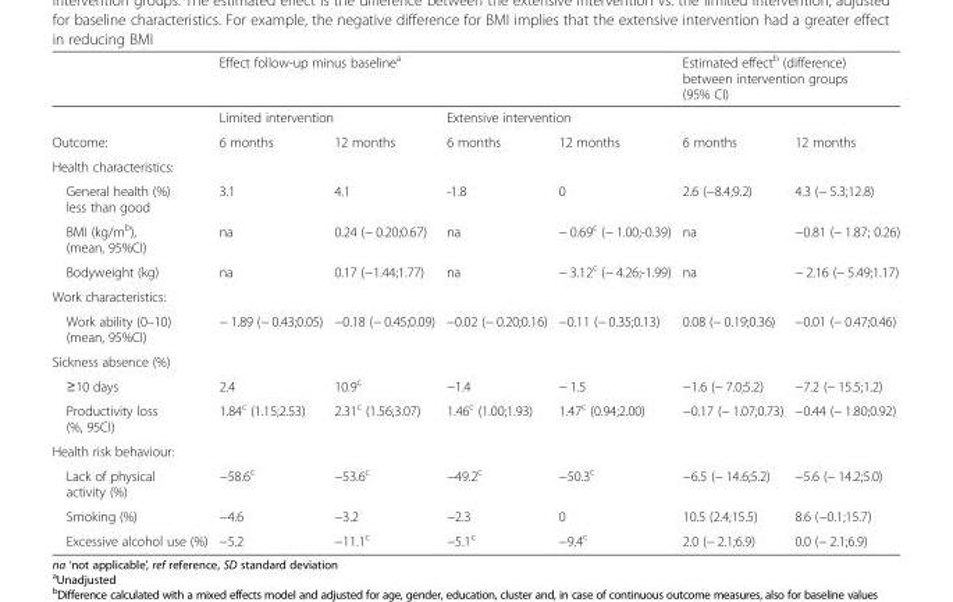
<table><thead><tr><td rowspan="3">Outcome:</td><td colspan="4">Effect follow-up minus baseline<sup>a</sup></td><td rowspan="2" colspan="2">Estimated effect<sup>b</sup> (difference) between intervention groups (95% CI)</td></tr><tr><td colspan="2">Limited intervention</td><td colspan="2">Extensive intervention</td></tr><tr><td>6 months</td><td>12 months</td><td>6 months</td><td>12 months</td><td>6 months</td><td>12 months</td></tr></thead><tbody><tr><td colspan="7">Health characteristics:</td></tr><tr><td>General health (%) less than good</td><td>3.1</td><td>4.1</td><td>-1.8</td><td>0</td><td>2.6 (−8.4;9.2)</td><td>4.3 (− 5.3;12.8)</td></tr><tr><td>BMI (kg/m<sup>b</sup>), (mean, 95%CI)</td><td>na</td><td>0.24 (− 0.20;0.67)</td><td>na</td><td>− 0.69<sup>c</sup> (− 1.00;-0.39)</td><td>na</td><td>−0.81 (− 1.87; 0.26)</td></tr><tr><td>Bodyweight (kg)</td><td>na</td><td>0.17 (−1.44;1.77)</td><td>na</td><td>− 3.12<sup>c</sup> (− 4.26;-1.99)</td><td>na</td><td>− 2.16 (− 5.49;1.17)</td></tr><tr><td colspan="7">Work characteristics:</td></tr><tr><td>Work ability (0–10) (mean, 95%CI)</td><td>− 1.89 (− 0.43;0.05)</td><td>−0.18 (− 0.45;0.09)</td><td>−0.02 (− 0.20;0.16)</td><td>−0.11 (− 0.35;0.13)</td><td>0.08 (− 0.19;0.36)</td><td>−0.01 (− 0.47;0.46)</td></tr><tr><td colspan="7">Sickness absence (%)</td></tr><tr><td>≥10 days</td><td>2.4</td><td>10.9<sup>c</sup></td><td>−1.4</td><td>− 1.5</td><td>−1.6 (− 7.0;5.2)</td><td>−7.2 (− 15.5;1.2)</td></tr><tr><td>Productivity loss (%, 95CI)</td><td>1.84<sup>c</sup> (1.15;2.53)</td><td>2.31<sup>c</sup> (1.56;3.07)</td><td>1.46<sup>c</sup> (1.00;1.93)</td><td>1.47<sup>c</sup> (0.94;2.00)</td><td>−0.17 (− 1.07;0.73)</td><td>−0.44 (− 1.80;0.92)</td></tr><tr><td colspan="7">Health risk behaviour:</td></tr><tr><td>Lack of physical activity (%)</td><td>−58.6<sup>c</sup></td><td>−53.6<sup>c</sup></td><td>−49.2<sup>c</sup></td><td>−50.3<sup>c</sup></td><td>−6.5 (− 14.6;5.2)</td><td>−5.6 (− 14.2;5.0)</td></tr><tr><td>Smoking (%)</td><td>−4.6</td><td>−3.2</td><td>−2.3</td><td>0</td><td>10.5 (2.4;15.5)</td><td>8.6 (−0.1;15.7)</td></tr><tr><td>Excessive alcohol use (%)</td><td>−5.2</td><td>−11.1<sup>c</sup></td><td>−5.1<sup>c</sup></td><td>−9.4<sup>c</sup></td><td>2.0 (− 2.1;6.9)</td><td>0.0 (− 2.1;6.9)</td></tr></tbody></table>